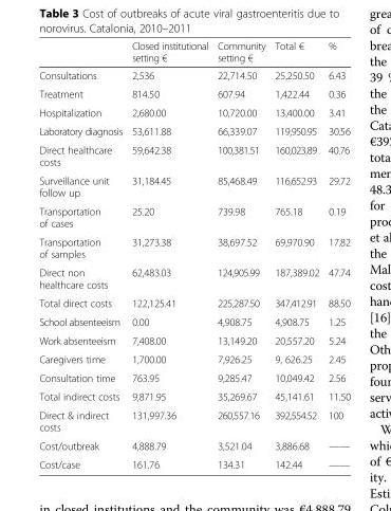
<table><thead><tr><td></td><td>Closed institutional setting €</td><td>Community setting €</td><td>Total €</td><td>%</td></tr></thead><tbody><tr><td>Consultations</td><td>2,536</td><td>22,714.50</td><td>25,250.50</td><td>6.43</td></tr><tr><td>Treatment</td><td>814.50</td><td>607.94</td><td>1,422.44</td><td>0.36</td></tr><tr><td>Hospitalization</td><td>2,680.00</td><td>10,720.00</td><td>13,400.00</td><td>3.41</td></tr><tr><td>Laboratory diagnosis</td><td>53,611.88</td><td>66,339.07</td><td>119,950.95</td><td>30.56</td></tr><tr><td>Direct healthcare costs</td><td>59,642.38</td><td>100,381.51</td><td>160,023.89</td><td>40.76</td></tr><tr><td>Surveillance unit follow up</td><td>31,184.45</td><td>85,468.49</td><td>116,652.93</td><td>29.72</td></tr><tr><td>Transportation of cases</td><td>25.20</td><td>739.98</td><td>765.18</td><td>0.19</td></tr><tr><td>Transportation of samples</td><td>31,273.38</td><td>38,697.52</td><td>69,970.90</td><td>17.82</td></tr><tr><td>Direct non healthcare costs</td><td>62,483.03</td><td>124,905.99</td><td>187,389.02</td><td>47.74</td></tr><tr><td>Total direct costs</td><td>122,125.41</td><td>225,287.50</td><td>347,412.91</td><td>88.50</td></tr><tr><td>School absenteeism</td><td>0.00</td><td>4,908.75</td><td>4,908.75</td><td>1.25</td></tr><tr><td>Work absenteeism</td><td>7,408.00</td><td>13,149.20</td><td>20,557.20</td><td>5.24</td></tr><tr><td>Caregivers time</td><td>1,700.00</td><td>7,926.25</td><td>9, 626.25</td><td>2.45</td></tr><tr><td>Consultation time</td><td>763.95</td><td>9,285.47</td><td>10,049.42</td><td>2.56</td></tr><tr><td>Total indirect costs</td><td>9,871.95</td><td>35,269.67</td><td>45,141.61</td><td>11.50</td></tr><tr><td>Direct &amp; indirect costs</td><td>131,997.36</td><td>260,557.16</td><td>392,554.52</td><td>100</td></tr><tr><td>Cost/outbreak</td><td>4,888.79</td><td>3,521.04</td><td>3,886.68</td><td>——</td></tr><tr><td>Cost/case</td><td>161.76</td><td>134.31</td><td>142.44</td><td>——</td></tr></tbody></table>